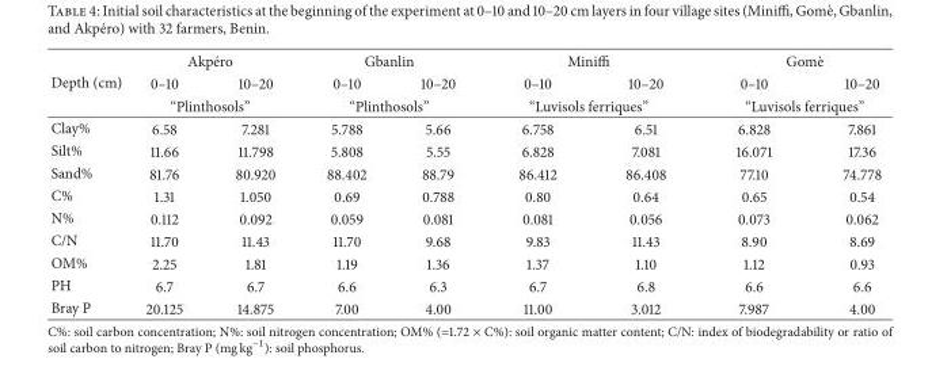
<table><thead><tr><td rowspan="3">Depth (cm)</td><td colspan="2">Akp´ero</td><td colspan="2">Gbanlin</td><td colspan="2">Miniffi</td><td colspan="2">Gom`e</td></tr><tr><td>0–10</td><td>10–20</td><td>0–10</td><td>10–20</td><td>0–10</td><td>10–20</td><td>0–10</td><td>10–20</td></tr><tr><td colspan="2">“Plinthosols”</td><td colspan="2">“Plinthosols”</td><td colspan="2">“Luvisols ferriques”</td><td colspan="2">“Luvisols ferriques”</td></tr></thead><tbody><tr><td>Clay%</td><td>6.58</td><td>7.281</td><td>5.788</td><td>5.66</td><td>6.758</td><td>6.51</td><td>6.828</td><td>7.861</td></tr><tr><td>Silt%</td><td>11.66</td><td>11.798</td><td>5.808</td><td>5.55</td><td>6.828</td><td>7.081</td><td>16.071</td><td>17.36</td></tr><tr><td>Sand%</td><td>81.76</td><td>80.920</td><td>88.402</td><td>88.79</td><td>86.412</td><td>86.408</td><td>77.10</td><td>74.778</td></tr><tr><td>C%</td><td>1.31</td><td>1.050</td><td>0.69</td><td>0.788</td><td>0.80</td><td>0.64</td><td>0.65</td><td>0.54</td></tr><tr><td>N%</td><td>0.112</td><td>0.092</td><td>0.059</td><td>0.081</td><td>0.081</td><td>0.056</td><td>0.073</td><td>0.062</td></tr><tr><td>C/N</td><td>11.70</td><td>11.43</td><td>11.70</td><td>9.68</td><td>9.83</td><td>11.43</td><td>8.90</td><td>8.69</td></tr><tr><td>OM%</td><td>2.25</td><td>1.81</td><td>1.19</td><td>1.36</td><td>1.37</td><td>1.10</td><td>1.12</td><td>0.93</td></tr><tr><td>PH</td><td>6.7</td><td>6.7</td><td>6.6</td><td>6.3</td><td>6.7</td><td>6.8</td><td>6.6</td><td>6.6</td></tr><tr><td>Bray P</td><td>20.125</td><td>14.875</td><td>7.00</td><td>4.00</td><td>11.00</td><td>3.012</td><td>7.987</td><td>4.00</td></tr></tbody></table>